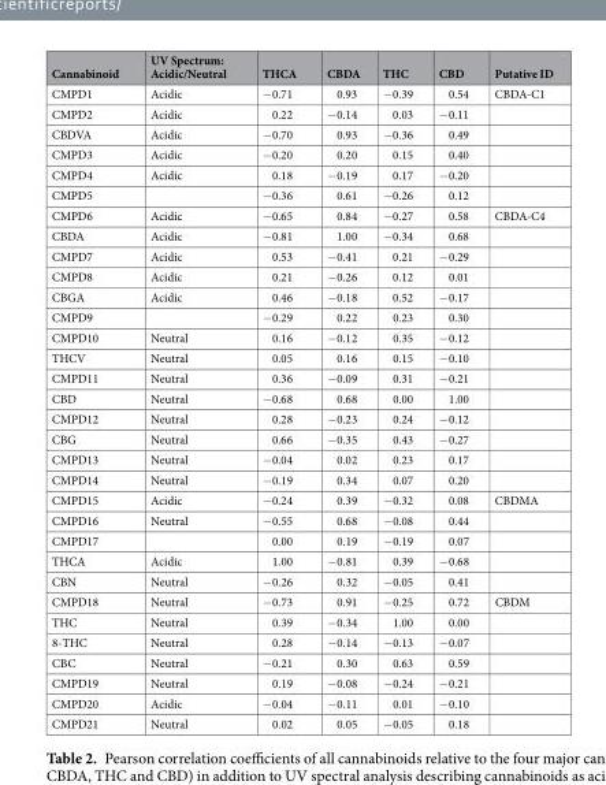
<table><thead><tr><td>Cannabinoid</td><td>UV Spectrum: Acidic/Neutral</td><td>THCA</td><td>CBDA</td><td>THC</td><td>CBD</td><td>Putative ID</td></tr></thead><tbody><tr><td>CMPD1</td><td>Acidic</td><td>−0.71</td><td>0.93</td><td>−0.39</td><td>0.54</td><td>CBDA-C1</td></tr><tr><td>CMPD2</td><td>Acidic</td><td>0.22</td><td>−0.14</td><td>0.03</td><td>−0.11</td><td></td></tr><tr><td>CBDVA</td><td>Acidic</td><td>−0.70</td><td>0.93</td><td>−0.36</td><td>0.49</td><td></td></tr><tr><td>CMPD3</td><td>Acidic</td><td>−0.20</td><td>0.20</td><td>0.15</td><td>0.40</td><td></td></tr><tr><td>CMPD4</td><td>Acidic</td><td>0.18</td><td>−0.19</td><td>0.17</td><td>−0.20</td><td></td></tr><tr><td>CMPD5</td><td></td><td>−0.36</td><td>0.61</td><td>−0.26</td><td>0.12</td><td></td></tr><tr><td>CMPD6</td><td>Acidic</td><td>−0.65</td><td>0.84</td><td>−0.27</td><td>0.58</td><td>CBDA-C4</td></tr><tr><td>CBDA</td><td>Acidic</td><td>−0.81</td><td>1.00</td><td>−0.34</td><td>0.68</td><td></td></tr><tr><td>CMPD7</td><td>Acidic</td><td>0.53</td><td>−0.41</td><td>0.21</td><td>−0.29</td><td></td></tr><tr><td>CMPD8</td><td>Acidic</td><td>0.21</td><td>−0.26</td><td>0.12</td><td>0.01</td><td></td></tr><tr><td>CBGA</td><td>Acidic</td><td>0.46</td><td>−0.18</td><td>0.52</td><td>−0.17</td><td></td></tr><tr><td>CMPD9</td><td></td><td>−0.29</td><td>0.22</td><td>0.23</td><td>0.30</td><td></td></tr><tr><td>CMPD10</td><td>Neutral</td><td>0.16</td><td>−0.12</td><td>0.35</td><td>−0.12</td><td></td></tr><tr><td>THCV</td><td>Neutral</td><td>0.05</td><td>0.16</td><td>0.15</td><td>−0.10</td><td></td></tr><tr><td>CMPD11</td><td>Neutral</td><td>0.36</td><td>−0.09</td><td>0.31</td><td>−0.21</td><td></td></tr><tr><td>CBD</td><td>Neutral</td><td>−0.68</td><td>0.68</td><td>0.00</td><td>1.00</td><td></td></tr><tr><td>CMPD12</td><td>Neutral</td><td>0.28</td><td>−0.23</td><td>0.24</td><td>−0.12</td><td></td></tr><tr><td>CBG</td><td>Neutral</td><td>0.66</td><td>−0.35</td><td>0.43</td><td>−0.27</td><td></td></tr><tr><td>CMPD13</td><td>Neutral</td><td>−0.04</td><td>0.02</td><td>0.23</td><td>0.17</td><td></td></tr><tr><td>CMPD14</td><td>Neutral</td><td>−0.19</td><td>0.34</td><td>0.07</td><td>0.20</td><td></td></tr><tr><td>CMPD15</td><td>Acidic</td><td>−0.24</td><td>0.39</td><td>−0.32</td><td>0.08</td><td>CBDMA</td></tr><tr><td>CMPD16</td><td>Neutral</td><td>−0.55</td><td>0.68</td><td>−0.08</td><td>0.44</td><td></td></tr><tr><td>CMPD17</td><td></td><td>0.00</td><td>0.19</td><td>−0.19</td><td>0.07</td><td></td></tr><tr><td>THCA</td><td>Acidic</td><td>1.00</td><td>−0.81</td><td>0.39</td><td>−0.68</td><td></td></tr><tr><td>CBN</td><td>Neutral</td><td>−0.26</td><td>0.32</td><td>−0.05</td><td>0.41</td><td></td></tr><tr><td>CMPD18</td><td>Neutral</td><td>−0.73</td><td>0.91</td><td>−0.25</td><td>0.72</td><td>CBDM</td></tr><tr><td>THC</td><td>Neutral</td><td>0.39</td><td>−0.34</td><td>1.00</td><td>0.00</td><td></td></tr><tr><td>8-THC</td><td>Neutral</td><td>0.28</td><td>−0.14</td><td>−0.13</td><td>−0.07</td><td></td></tr><tr><td>CBC</td><td>Neutral</td><td>−0.21</td><td>0.30</td><td>0.63</td><td>0.59</td><td></td></tr><tr><td>CMPD19</td><td>Neutral</td><td>0.19</td><td>−0.08</td><td>−0.24</td><td>−0.21</td><td></td></tr><tr><td>CMPD20</td><td>Acidic</td><td>−0.04</td><td>−0.11</td><td>0.01</td><td>−0.10</td><td></td></tr><tr><td>CMPD21</td><td>Neutral</td><td>0.02</td><td>0.05</td><td>−0.05</td><td>0.18</td><td></td></tr></tbody></table>